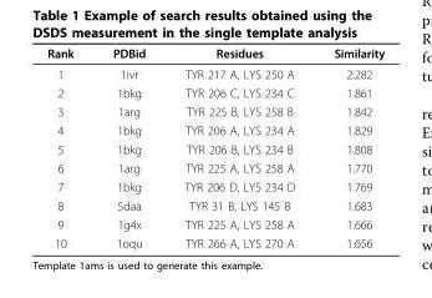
<table><thead><tr><td>Rank</td><td>PDBid</td><td>Residues</td><td>Similarity</td></tr></thead><tbody><tr><td>1</td><td>1ivr</td><td>TYR 217 A, LYS 250 A</td><td>2.282</td></tr><tr><td>2</td><td>1bkg</td><td>TYR 206 C, LYS 234 C</td><td>1.861</td></tr><tr><td>3</td><td>1arg</td><td>TYR 225 B, LYS 258 B</td><td>1.842</td></tr><tr><td>4</td><td>1bkg</td><td>TYR 206 A, LYS 234 A</td><td>1.829</td></tr><tr><td>5</td><td>1bkg</td><td>TYR 206 B, LYS 234 B</td><td>1.808</td></tr><tr><td>6</td><td>1arg</td><td>TYR 225 A, LYS 258 A</td><td>1.770</td></tr><tr><td>7</td><td>1bkg</td><td>TYR 206 D, LYS 234 D</td><td>1.769</td></tr><tr><td>8</td><td>5daa</td><td>TYR 31 B, LYS 145 B</td><td>1.683</td></tr><tr><td>9</td><td>1g4x</td><td>TYR 225 A, LYS 258 A</td><td>1.666</td></tr><tr><td>10</td><td>1oqu</td><td>TYR 266 A, LYS 270 A</td><td>1.656</td></tr></tbody></table>